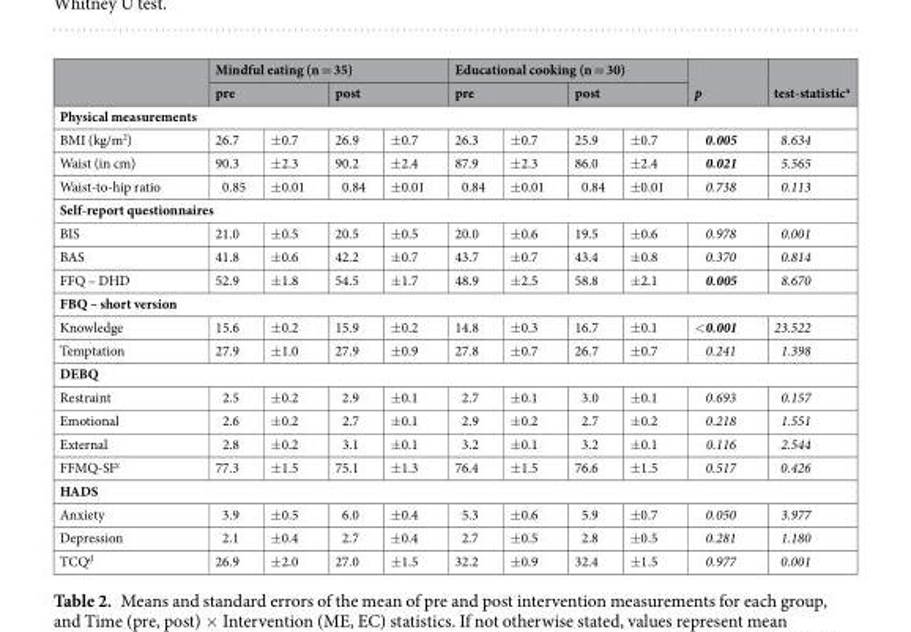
<table><thead><tr><td rowspan="2"></td><td colspan="4">Mindful eating (n = 35)</td><td colspan="4">Educational cooking (n = 30)</td><td rowspan="2">p</td><td rowspan="2">test-statistic<sup>a</sup></td></tr><tr><td colspan="2">pre</td><td colspan="2">post</td><td colspan="2">pre</td><td colspan="2">post</td></tr><tr><td colspan="11">Physical measurements</td></tr><tr><td>BMI (kg/m<sup>2</sup>)</td><td>26.7</td><td>±0.7</td><td>26.9</td><td>±0.7</td><td>26.3</td><td>±0.7</td><td>25.9</td><td>±0.7</td><td>0.005</td><td>8.634</td></tr></thead><tbody><tr><td>Waist (in cm)</td><td>90.3</td><td>±2.3</td><td>90.2</td><td>±2.4</td><td>87.9</td><td>±2.3</td><td>86.0</td><td>±2.4</td><td>0.021</td><td>5.565</td></tr><tr><td>Waist-to-hip ratio</td><td>0.85</td><td>±0.01</td><td>0.84</td><td>±0.01</td><td>0.84</td><td>±0.01</td><td>0.84</td><td>±0.01</td><td>0.738</td><td>0.113</td></tr><tr><td colspan="11">Self-report questionnaires</td></tr><tr><td>BIS</td><td>21.0</td><td>±0.5</td><td>20.5</td><td>±0.5</td><td>20.0</td><td>±0.6</td><td>19.5</td><td>±0.6</td><td>0.978</td><td>0.001</td></tr><tr><td>BAS</td><td>41.8</td><td>±0.6</td><td>42.2</td><td>±0.7</td><td>43.7</td><td>±0.7</td><td>43.4</td><td>±0.8</td><td>0.370</td><td>0.814</td></tr><tr><td>FFQ – DHD</td><td>52.9</td><td>±1.8</td><td>54.5</td><td>±1.7</td><td>48.9</td><td>±2.5</td><td>58.8</td><td>±2.1</td><td>0.005</td><td>8.670</td></tr><tr><td colspan="11">FBQ – short version</td></tr><tr><td>Knowledge</td><td>15.6</td><td>±0.2</td><td>15.9</td><td>±0.2</td><td>14.8</td><td>±0.3</td><td>16.7</td><td>±0.1</td><td>&lt;0.001</td><td>23.522</td></tr><tr><td>Temptation</td><td>27.9</td><td>±1.0</td><td>27.9</td><td>±0.9</td><td>27.8</td><td>±0.7</td><td>26.7</td><td>±0.7</td><td>0.241</td><td>1.398</td></tr><tr><td colspan="11">DEBQ</td></tr><tr><td>Restraint</td><td>2.5</td><td>±0.2</td><td>2.9</td><td>±0.1</td><td>2.7</td><td>±0.1</td><td>3.0</td><td>±0.1</td><td>0.693</td><td>0.157</td></tr><tr><td>Emotional</td><td>2.6</td><td>±0.2</td><td>2.7</td><td>±0.1</td><td>2.9</td><td>±0.2</td><td>2.7</td><td>±0.2</td><td>0.218</td><td>1.551</td></tr><tr><td>External</td><td>2.8</td><td>±0.2</td><td>3.1</td><td>±0.1</td><td>3.2</td><td>±0.1</td><td>3.2</td><td>±0.1</td><td>0.116</td><td>2.544</td></tr><tr><td>FFMQ-SF<sup>c</sup></td><td>77.3</td><td>±1.5</td><td>75.1</td><td>±1.3</td><td>76.4</td><td>±1.5</td><td>76.6</td><td>±1.5</td><td>0.517</td><td>0.426</td></tr><tr><td colspan="11">HADS</td></tr><tr><td>Anxiety</td><td>3.9</td><td>±0.5</td><td>6.0</td><td>±0.4</td><td>5.3</td><td>±0.6</td><td>5.9</td><td>±0.7</td><td>0.050</td><td>3.977</td></tr><tr><td>Depression</td><td>2.1</td><td>±0.4</td><td>2.7</td><td>±0.4</td><td>2.7</td><td>±0.5</td><td>2.8</td><td>±0.5</td><td>0.281</td><td>1.180</td></tr><tr><td>TCQ<sup>d</sup></td><td>26.9</td><td>±2.0</td><td>27.0</td><td>±1.5</td><td>32.2</td><td>±0.9</td><td>32.4</td><td>±1.5</td><td>0.977</td><td>0.001</td></tr></tbody></table>